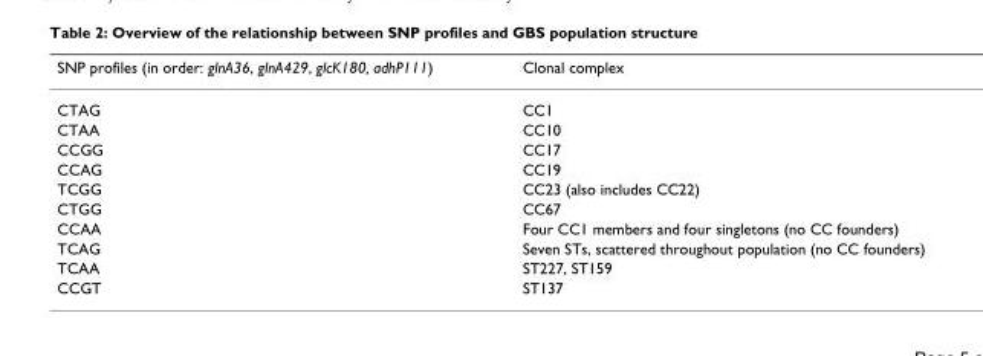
<table><thead><tr><td>SNP profiles (in order: glnA36, glnA429, glcK180, adhP111)</td><td>Clonal complex</td></tr></thead><tbody><tr><td>CTAG</td><td>CC1</td></tr><tr><td>CTAA</td><td>CC10</td></tr><tr><td>CCGG</td><td>CC17</td></tr><tr><td>CCAG</td><td>CC19</td></tr><tr><td>TCGG</td><td>CC23 (also includes CC22)</td></tr><tr><td>CTGG</td><td>CC67</td></tr><tr><td>CCAA</td><td>Four CC1 members and four singletons (no CC founders)</td></tr><tr><td>TCAG</td><td>Seven STs, scattered throughout population (no CC founders)</td></tr><tr><td>TCAA</td><td>ST227, ST159</td></tr><tr><td>CCGT</td><td>ST137</td></tr></tbody></table>